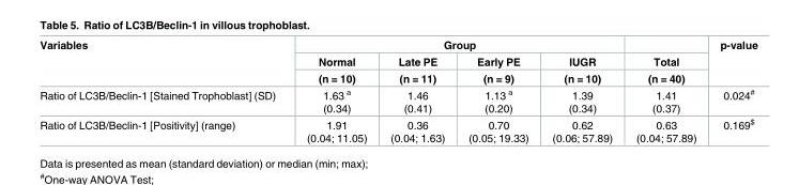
<table><thead><tr><td rowspan="3">Variables</td><td colspan="4">Group</td><td rowspan="3">Total (n = 40)</td><td rowspan="3">p-value</td></tr><tr><td rowspan="2">Normal (n = 10)</td><td rowspan="2">Late PE (n = 11)</td><td rowspan="2">Early PE (n = 9)</td><td rowspan="2">IUGR (n = 10)</td></tr><tr></tr></thead><tbody><tr><td>Ratio of LC3B/Beclin-1 [Stained Trophoblast] (SD)</td><td>1.63 <sup>a</sup> (0.34)</td><td>1.46 (0.41)</td><td>1.13 <sup>a</sup> (0.20)</td><td>1.39 (0.34)</td><td>1.41 (0.37)</td><td>0.024<sup>#</sup></td></tr><tr><td>Ratio of LC3B/Beclin-1 [Positivity] (range)</td><td>1.91 (0.04; 11.05)</td><td>0.36 (0.04; 1.63)</td><td>0.70 (0.05; 19.33)</td><td>0.62 (0.06; 57.89)</td><td>0.63 (0.04; 57.89)</td><td>0.169<sup>$</sup></td></tr></tbody></table>